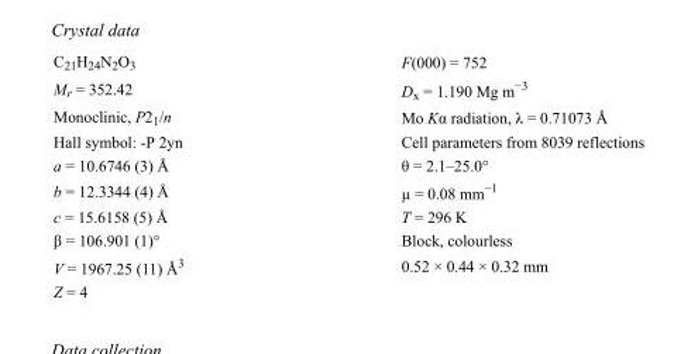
<table><tbody><tr><td>C<sub>21</sub>H<sub>24</sub>N<sub>2</sub>O<sub>3</sub></td><td>F(000) = 752</td></tr><tr><td>M<sub>r</sub> = 352.42</td><td>D<sub>x</sub> = 1.190 Mg m<sup>−3</sup></td></tr><tr><td>Monoclinic, P2<sub>1</sub>/n</td><td>Mo Kα radiation, λ = 0.71073 Å</td></tr><tr><td>Hall symbol: -P 2yn</td><td>Cell parameters from 8039 reflections</td></tr><tr><td>a = 10.6746 (3) Å</td><td>θ = 2.1–25.0°</td></tr><tr><td>b = 12.3344 (4) Å</td><td>µ = 0.08 mm<sup>−1</sup></td></tr><tr><td>c = 15.6158 (5) Å</td><td>T = 296 K</td></tr><tr><td>β = 106.901 (1)°</td><td>Block, colourless</td></tr><tr><td>V = 1967.25 (11) Å<sup>3</sup></td><td>0.52 × 0.44 × 0.32 mm</td></tr><tr><td>Z = 4</td><td></td></tr></tbody></table>